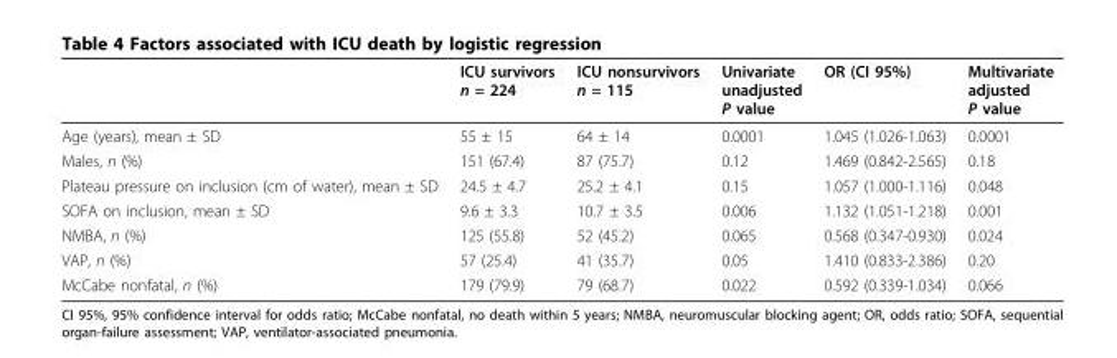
<table><thead><tr><td></td><td>ICU survivors n = 224</td><td>ICU nonsurvivors n = 115</td><td>Univariate unadjusted P value</td><td>OR (CI 95%)</td><td>Multivariate adjusted P value</td></tr></thead><tbody><tr><td>Age (years), mean ± SD</td><td>55 ± 15</td><td>64 ± 14</td><td>0.0001</td><td>1.045 (1.026-1.063)</td><td>0.0001</td></tr><tr><td>Males, n (%)</td><td>151 (67.4)</td><td>87 (75.7)</td><td>0.12</td><td>1.469 (0.842-2.565)</td><td>0.18</td></tr><tr><td>Plateau pressure on inclusion (cm of water), mean ± SD</td><td>24.5 ± 4.7</td><td>25.2 ± 4.1</td><td>0.15</td><td>1.057 (1.000-1.116)</td><td>0.048</td></tr><tr><td>SOFA on inclusion, mean ± SD</td><td>9.6 ± 3.3</td><td>10.7 ± 3.5</td><td>0.006</td><td>1.132 (1.051-1.218)</td><td>0.001</td></tr><tr><td>NMBA, n (%)</td><td>125 (55.8)</td><td>52 (45.2)</td><td>0.065</td><td>0.568 (0.347-0.930)</td><td>0.024</td></tr><tr><td>VAP, n (%)</td><td>57 (25.4)</td><td>41 (35.7)</td><td>0.05</td><td>1.410 (0.833-2.386)</td><td>0.20</td></tr><tr><td>McCabe nonfatal, n (%)</td><td>179 (79.9)</td><td>79 (68.7)</td><td>0.022</td><td>0.592 (0.339-1.034)</td><td>0.066</td></tr></tbody></table>